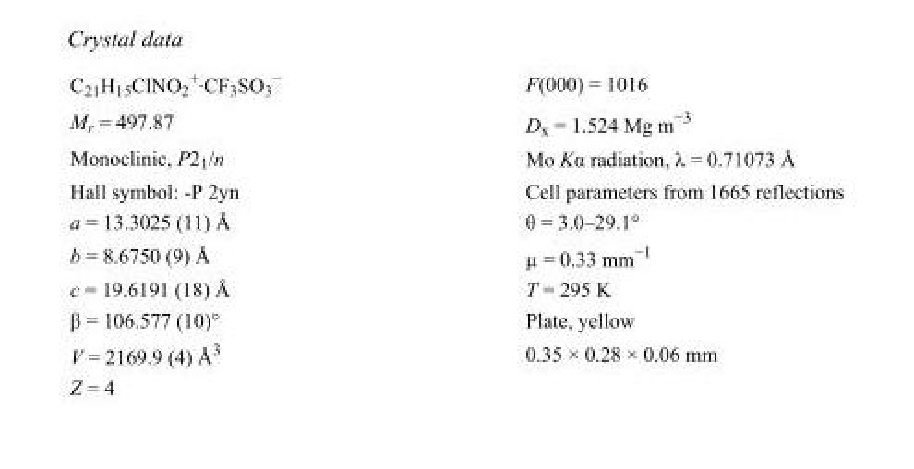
<table><tbody><tr><td>C<sub>21</sub>H<sub>15</sub>ClNO<sub>2</sub> <sup>+</sup>·CF<sub>3</sub>SO<sub>3</sub> <sup>−</sup></td><td>F(000) = 1016</td></tr><tr><td>M<sub>r</sub> = 497.87</td><td>D<sub>x</sub> = 1.524 Mg m<sup>−3</sup></td></tr><tr><td>Monoclinic, P2<sub>1</sub>/n</td><td>Mo Kα radiation, λ = 0.71073 Å</td></tr><tr><td>Hall symbol: -P 2yn</td><td>Cell parameters from 1665 reflections</td></tr><tr><td>a = 13.3025 (11) Å</td><td>θ = 3.0–29.1°</td></tr><tr><td>b = 8.6750 (9) Å</td><td>µ = 0.33 mm<sup>−1</sup></td></tr><tr><td>c = 19.6191 (18) Å</td><td>T = 295 K</td></tr><tr><td>β = 106.577 (10)°</td><td>Plate, yellow</td></tr><tr><td>V = 2169.9 (4) Å<sup>3</sup></td><td>0.35 × 0.28 × 0.06 mm</td></tr><tr><td>Z = 4</td><td></td></tr></tbody></table>